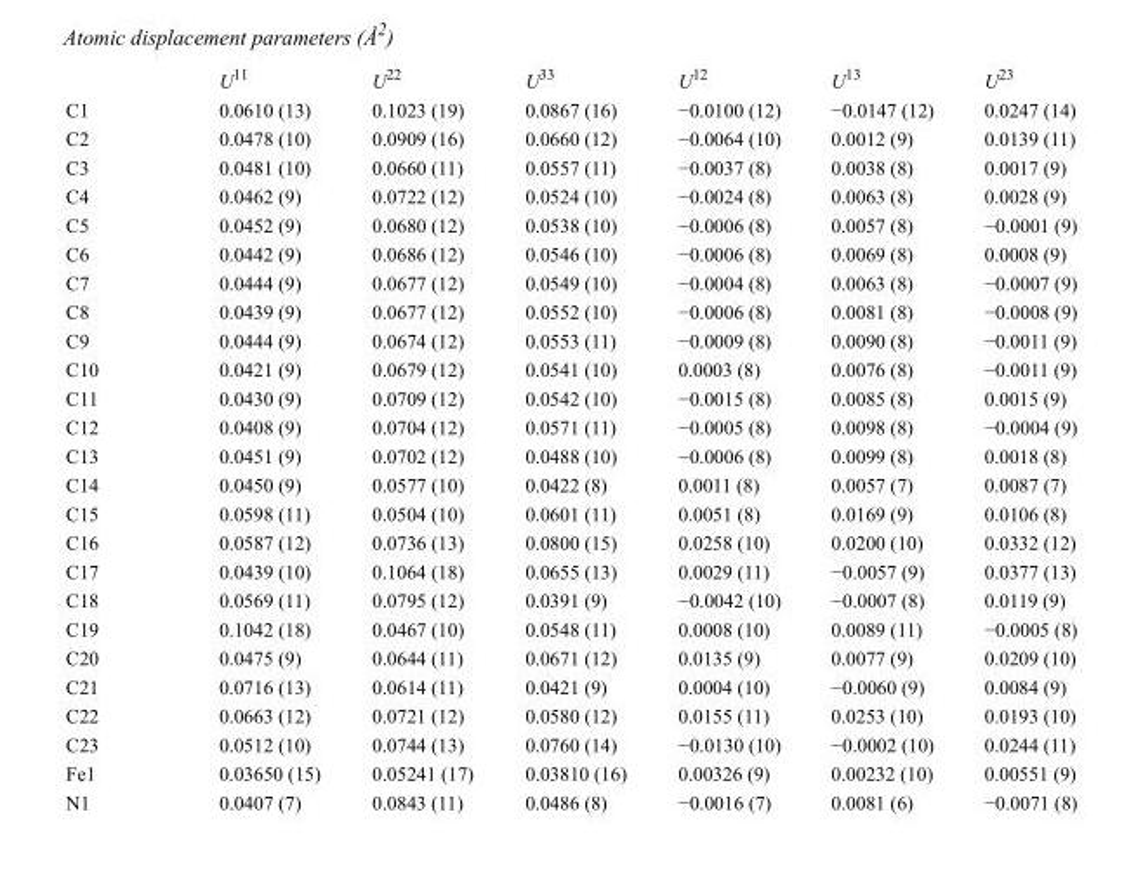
<table><thead><tr><td></td><td>U<sup>11</sup></td><td>U<sup>22</sup></td><td>U<sup>33</sup></td><td>U<sup>12</sup></td><td>U<sup>13</sup></td><td>U<sup>23</sup></td></tr></thead><tbody><tr><td>C1</td><td>0.0610 (13)</td><td>0.1023 (19)</td><td>0.0867 (16)</td><td>−0.0100 (12)</td><td>−0.0147 (12)</td><td>0.0247 (14)</td></tr><tr><td>C2</td><td>0.0478 (10)</td><td>0.0909 (16)</td><td>0.0660 (12)</td><td>−0.0064 (10)</td><td>0.0012 (9)</td><td>0.0139 (11)</td></tr><tr><td>C3</td><td>0.0481 (10)</td><td>0.0660 (11)</td><td>0.0557 (11)</td><td>−0.0037 (8)</td><td>0.0038 (8)</td><td>0.0017 (9)</td></tr><tr><td>C4</td><td>0.0462 (9)</td><td>0.0722 (12)</td><td>0.0524 (10)</td><td>−0.0024 (8)</td><td>0.0063 (8)</td><td>0.0028 (9)</td></tr><tr><td>C5</td><td>0.0452 (9)</td><td>0.0680 (12)</td><td>0.0538 (10)</td><td>−0.0006 (8)</td><td>0.0057 (8)</td><td>−0.0001 (9)</td></tr><tr><td>C6</td><td>0.0442 (9)</td><td>0.0686 (12)</td><td>0.0546 (10)</td><td>−0.0006 (8)</td><td>0.0069 (8)</td><td>0.0008 (9)</td></tr><tr><td>C7</td><td>0.0444 (9)</td><td>0.0677 (12)</td><td>0.0549 (10)</td><td>−0.0004 (8)</td><td>0.0063 (8)</td><td>−0.0007 (9)</td></tr><tr><td>C8</td><td>0.0439 (9)</td><td>0.0677 (12)</td><td>0.0552 (10)</td><td>−0.0006 (8)</td><td>0.0081 (8)</td><td>−0.0008 (9)</td></tr><tr><td>C9</td><td>0.0444 (9)</td><td>0.0674 (12)</td><td>0.0553 (11)</td><td>−0.0009 (8)</td><td>0.0090 (8)</td><td>−0.0011 (9)</td></tr><tr><td>C10</td><td>0.0421 (9)</td><td>0.0679 (12)</td><td>0.0541 (10)</td><td>0.0003 (8)</td><td>0.0076 (8)</td><td>−0.0011 (9)</td></tr><tr><td>C11</td><td>0.0430 (9)</td><td>0.0709 (12)</td><td>0.0542 (10)</td><td>−0.0015 (8)</td><td>0.0085 (8)</td><td>0.0015 (9)</td></tr><tr><td>C12</td><td>0.0408 (9)</td><td>0.0704 (12)</td><td>0.0571 (11)</td><td>−0.0005 (8)</td><td>0.0098 (8)</td><td>−0.0004 (9)</td></tr><tr><td>C13</td><td>0.0451 (9)</td><td>0.0702 (12)</td><td>0.0488 (10)</td><td>−0.0006 (8)</td><td>0.0099 (8)</td><td>0.0018 (8)</td></tr><tr><td>C14</td><td>0.0450 (9)</td><td>0.0577 (10)</td><td>0.0422 (8)</td><td>0.0011 (8)</td><td>0.0057 (7)</td><td>0.0087 (7)</td></tr><tr><td>C15</td><td>0.0598 (11)</td><td>0.0504 (10)</td><td>0.0601 (11)</td><td>0.0051 (8)</td><td>0.0169 (9)</td><td>0.0106 (8)</td></tr><tr><td>C16</td><td>0.0587 (12)</td><td>0.0736 (13)</td><td>0.0800 (15)</td><td>0.0258 (10)</td><td>0.0200 (10)</td><td>0.0332 (12)</td></tr><tr><td>C17</td><td>0.0439 (10)</td><td>0.1064 (18)</td><td>0.0655 (13)</td><td>0.0029 (11)</td><td>−0.0057 (9)</td><td>0.0377 (13)</td></tr><tr><td>C18</td><td>0.0569 (11)</td><td>0.0795 (12)</td><td>0.0391 (9)</td><td>−0.0042 (10)</td><td>−0.0007 (8)</td><td>0.0119 (9)</td></tr><tr><td>C19</td><td>0.1042 (18)</td><td>0.0467 (10)</td><td>0.0548 (11)</td><td>0.0008 (10)</td><td>0.0089 (11)</td><td>−0.0005 (8)</td></tr><tr><td>C20</td><td>0.0475 (9)</td><td>0.0644 (11)</td><td>0.0671 (12)</td><td>0.0135 (9)</td><td>0.0077 (9)</td><td>0.0209 (10)</td></tr><tr><td>C21</td><td>0.0716 (13)</td><td>0.0614 (11)</td><td>0.0421 (9)</td><td>0.0004 (10)</td><td>−0.0060 (9)</td><td>0.0084 (9)</td></tr><tr><td>C22</td><td>0.0663 (12)</td><td>0.0721 (12)</td><td>0.0580 (12)</td><td>0.0155 (11)</td><td>0.0253 (10)</td><td>0.0193 (10)</td></tr><tr><td>C23</td><td>0.0512 (10)</td><td>0.0744 (13)</td><td>0.0760 (14)</td><td>−0.0130 (10)</td><td>−0.0002 (10)</td><td>0.0244 (11)</td></tr><tr><td>Fe1</td><td>0.03650 (15)</td><td>0.05241 (17)</td><td>0.03810 (16)</td><td>0.00326 (9)</td><td>0.00232 (10)</td><td>0.00551 (9)</td></tr><tr><td>N1</td><td>0.0407 (7)</td><td>0.0843 (11)</td><td>0.0486 (8)</td><td>−0.0016 (7)</td><td>0.0081 (6)</td><td>−0.0071 (8)</td></tr></tbody></table>